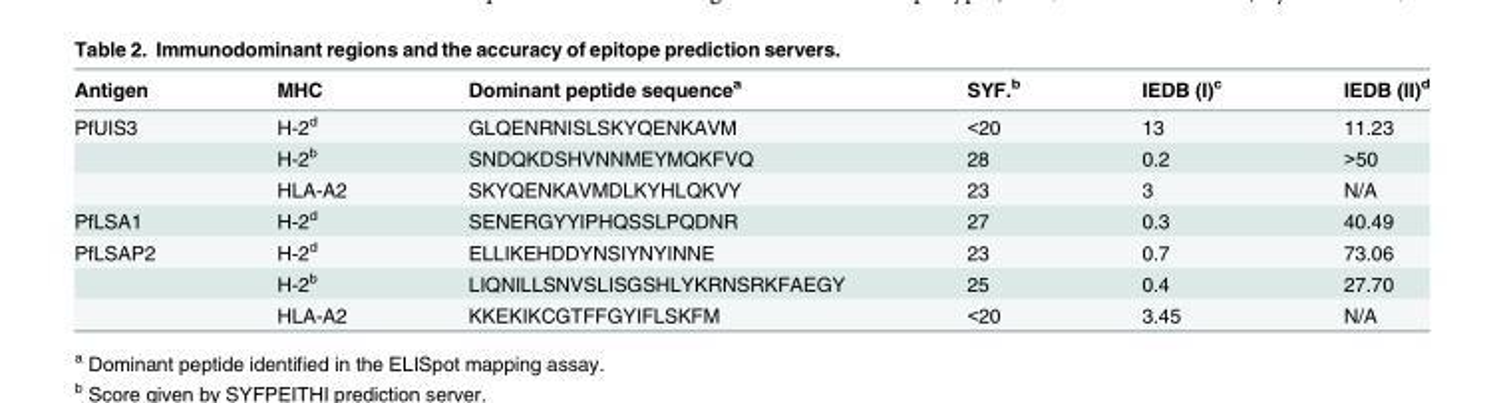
<table><thead><tr><td>Antigen</td><td>MHC</td><td>Dominant peptide sequence<sup>a</sup></td><td>SYF.<sup>b</sup></td><td>IEDB (I)<sup>c</sup></td><td>IEDB (II)<sup>d</sup></td></tr></thead><tbody><tr><td rowspan="3">PfUIS3</td><td>H-2<sup>d</sup></td><td>GLQENRNISLSKYQENKAVM</td><td>&lt;20</td><td>13</td><td>11.23</td></tr><tr><td>H-2<sup>b</sup></td><td>SNDQKDSHVNNMEYMQKFVQ</td><td>28</td><td>0.2</td><td>&gt;50</td></tr><tr><td>HLA-A2</td><td>SKYQENKAVMDLKYHLQKVY</td><td>23</td><td>3</td><td>N/A</td></tr><tr><td>PfLSA1</td><td>H-2<sup>d</sup></td><td>SENERGYYIPHQSSLPQDNR</td><td>27</td><td>0.3</td><td>40.49</td></tr><tr><td rowspan="3">PfLSAP2</td><td>H-2<sup>d</sup></td><td>ELLIKEHDDYNSIYNYINNE</td><td>23</td><td>0.7</td><td>73.06</td></tr><tr><td>H-2<sup>b</sup></td><td>LIQNILLSNVSLISGSHLYKRNSRKFAEGY</td><td>25</td><td>0.4</td><td>27.70</td></tr><tr><td>HLA-A2</td><td>KKEKIKCGTFFGYIFLSKFM</td><td>&lt;20</td><td>3.45</td><td>N/A</td></tr></tbody></table>